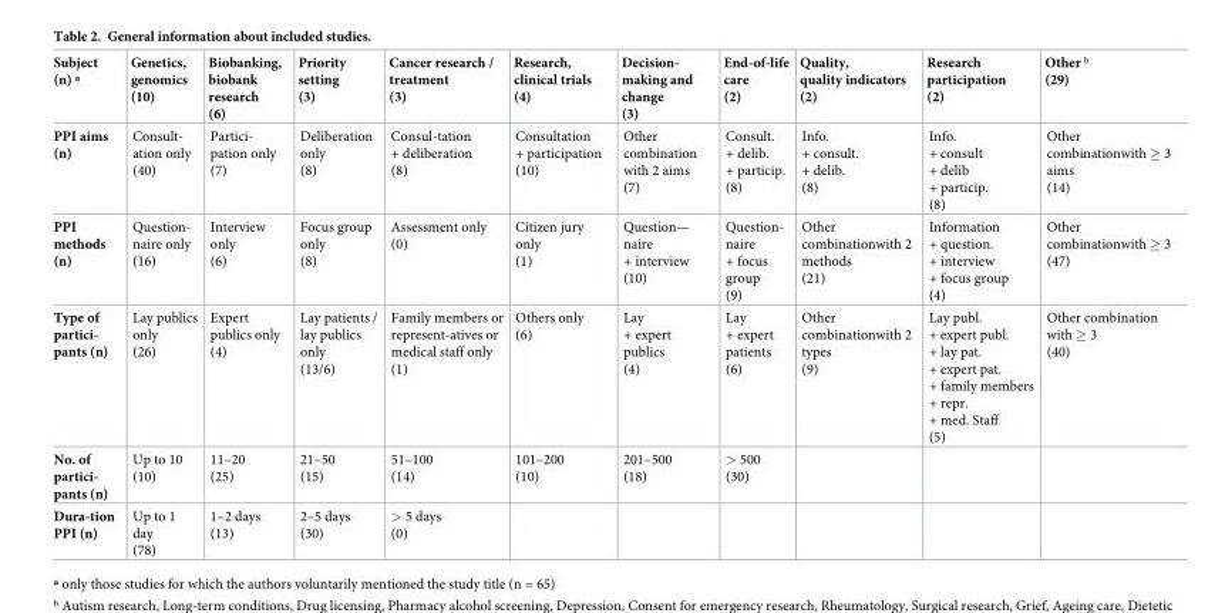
<table><thead><tr><td>Subject (n) ª</td><td>Genetics, genomics (10)</td><td>Biobanking, biobank research (6)</td><td>Priority setting (3)</td><td>Cancer research / treatment (3)</td><td>Research, clinical trials (4)</td><td>Decision- making and change (3)</td><td>End-of-life care (2)</td><td>Quality, quality indicators (2)</td><td>Research participation (2)</td><td>Other ᵇ (29)</td></tr></thead><tbody><tr><td>PPI aims (n)</td><td>Consult- ation only (40)</td><td>Partici- pation only (7)</td><td>Deliberation only (8)</td><td>Consul-tation + deliberation (8)</td><td>Consultation + participation (10)</td><td>Other combination with 2 aims (7)</td><td>Consult. + delib. + particip. (8)</td><td>Info. + consult. + delib. (8)</td><td>Info. + consult + delib + particip. (8)</td><td>Other combinationwith ≥ 3 aims (14)</td></tr><tr><td>PPI methods (n)</td><td>Question- naire only (16)</td><td>Interview only (6)</td><td>Focus group only (8)</td><td>Assessment only (0)</td><td>Citizen jury only (1)</td><td>Question— naire + interview (10)</td><td>Question- naire + focus group (9)</td><td>Other combinationwith 2 methods (21)</td><td>Information + question. + interview + focus group (4)</td><td>Other combinationwith ≥ 3 (47)</td></tr><tr><td>Type of partici- pants (n)</td><td>Lay publics only (26)</td><td>Expert publics only (4)</td><td>Lay patients / lay publics only (13/6)</td><td>Family members or represent-atives or medical staff only (1)</td><td>Others only (6)</td><td>Lay + expert publics (4)</td><td>Lay + expert patients (6)</td><td>Other combinationwith 2 types (9)</td><td>Lay publ. + expert publ. + lay pat. + expert pat. + family members + repr. + med. Staff (5)</td><td>Other combination with ≥ 3 (40)</td></tr><tr><td>No. of partici- pants (n)</td><td>Up to 10 (10)</td><td>11–20 (25)</td><td>21–50 (15)</td><td>51–100 (14)</td><td>101–200 (10)</td><td>201–500 (18)</td><td>&gt; 500 (30)</td><td></td><td></td><td></td></tr><tr><td>Dura-tion PPI (n)</td><td>Up to 1 day (78)</td><td>1–2 days (13)</td><td>2–5 days (30)</td><td>&gt; 5 days (0)</td><td></td><td></td><td></td><td></td><td></td><td></td></tr></tbody></table>